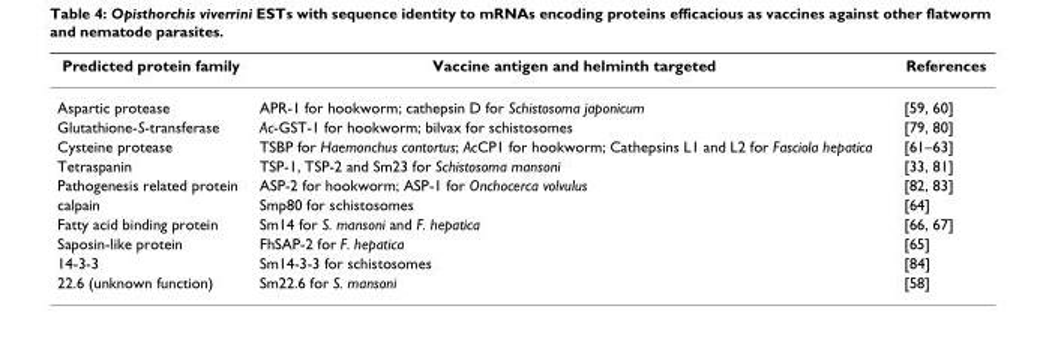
<table><thead><tr><td>Predicted protein family</td><td>Vaccine antigen and helminth targeted</td><td>References</td></tr></thead><tbody><tr><td>Aspartic protease</td><td>APR-1 for hookworm; cathepsin D for Schistosoma japonicum</td><td>[59, 60]</td></tr><tr><td>Glutathione-S-transferase</td><td>Ac-GST-1 for hookworm; bilvax for schistosomes</td><td>[79, 80]</td></tr><tr><td>Cysteine protease</td><td>TSBP for Haemonchus contortus; AcCP1 for hookworm; Cathepsins L1 and L2 for Fasciola hepatica</td><td>[61–63]</td></tr><tr><td>Tetraspanin</td><td>TSP-1, TSP-2 and Sm23 for Schistosoma mansoni</td><td>[33, 81]</td></tr><tr><td>Pathogenesis related protein</td><td>ASP-2 for hookworm; ASP-1 for Onchocerca volvulus</td><td>[82, 83]</td></tr><tr><td>calpain</td><td>Smp80 for schistosomes</td><td>[64]</td></tr><tr><td>Fatty acid binding protein</td><td>Sm14 for S. mansoni and F. hepatica</td><td>[66, 67]</td></tr><tr><td>Saposin-like protein</td><td>FhSAP-2 for F. hepatica</td><td>[65]</td></tr><tr><td>14-3-3</td><td>Sm14-3-3 for schistosomes</td><td>[84]</td></tr><tr><td>22.6 (unknown function)</td><td>Sm22.6 for S. mansoni</td><td>[58]</td></tr></tbody></table>